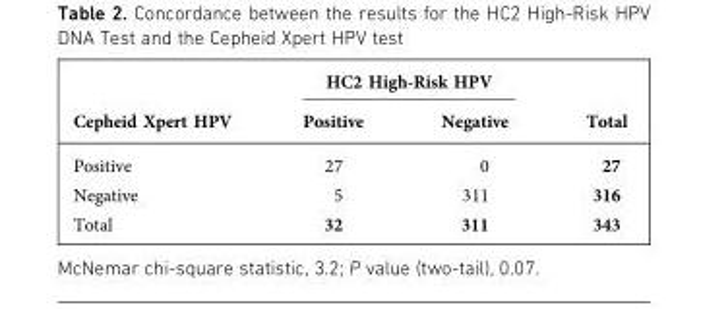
<table><thead><tr><td rowspan="2">Cepheid Xpert HPV</td><td colspan="2">HC2 High-Risk HPV</td><td rowspan="2">Total</td></tr><tr><td>Positive</td><td>Negative</td></tr></thead><tbody><tr><td>Positive</td><td>27</td><td>0</td><td>27</td></tr><tr><td>Negative</td><td>5</td><td>311</td><td>316</td></tr><tr><td>Total</td><td>32</td><td>311</td><td>343</td></tr></tbody></table>